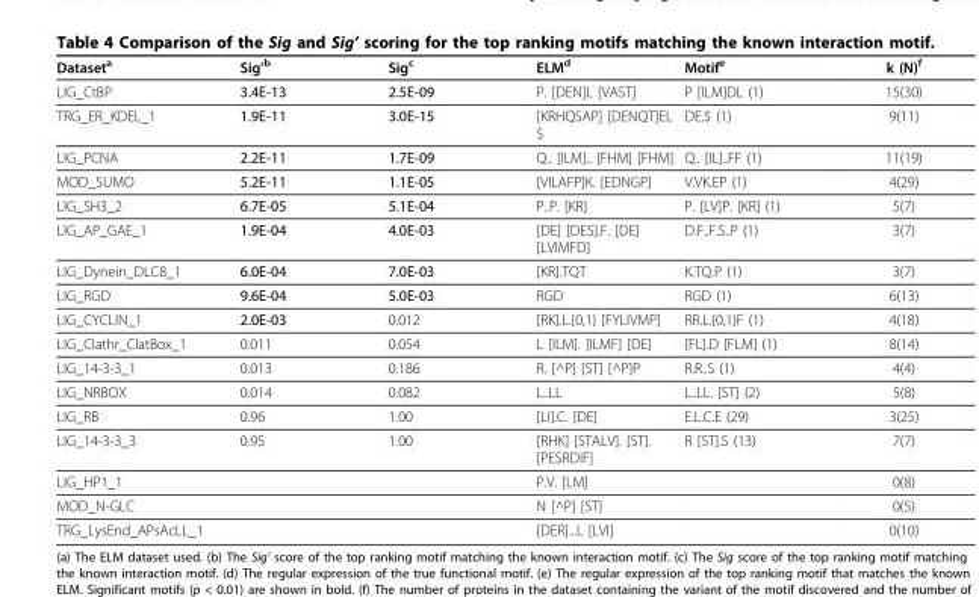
<table><thead><tr><td>Dataset<sup>a</sup></td><td>Sig’<sup>b</sup></td><td>Sig<sup>c</sup></td><td>ELM<sup>d</sup></td><td>Motif<sup>e</sup></td><td>k (N)<sup>f</sup></td></tr></thead><tbody><tr><td>LIG_CtBP</td><td>3.4E-13</td><td>2.5E-09</td><td>P. [DEN]L [VAST]</td><td>P [ILM]DL (1)</td><td>15(30)</td></tr><tr><td>TRG_ER_KDEL_1</td><td>1.9E-11</td><td>3.0E-15</td><td>[KRHQSAP] [DENQT]EL $</td><td>DE.$ (1)</td><td>9(11)</td></tr><tr><td>LIG_PCNA</td><td>2.2E-11</td><td>1.7E-09</td><td>Q.. [ILM].. [FHM] [FHM]</td><td>Q.. [IL]..FF (1)</td><td>11(19)</td></tr><tr><td>MOD_SUMO</td><td>5.2E-11</td><td>1.1E-05</td><td>[VILAFP]K. [EDNGP]</td><td>V.VK.EP (1)</td><td>4(29)</td></tr><tr><td>LIG_SH3_2</td><td>6.7E-05</td><td>5.1E-04</td><td>P..P. [KR]</td><td>P. [LV]P. [KR] (1)</td><td>5(7)</td></tr><tr><td>LIG_AP_GAE_1</td><td>1.9E-04</td><td>4.0E-03</td><td>[DE] [DES].F. [DE] [LVIMFD]</td><td>D.F..F.S..P (1)</td><td>3(7)</td></tr><tr><td>LIG_Dynein_DLC8_1</td><td>6.0E-04</td><td>7.0E-03</td><td>[KR].TQT</td><td>K.TQ.P (1)</td><td>3(7)</td></tr><tr><td>LIG_RGD</td><td>9.6E-04</td><td>5.0E-03</td><td>RGD</td><td>RGD (1)</td><td>6(13)</td></tr><tr><td>LIG_CYCLIN_1</td><td>2.0E-03</td><td>0.012</td><td>[RK].L.{0,1} [FYLIVMP]</td><td>RR.L.{0,1}F (1)</td><td>4(18)</td></tr><tr><td>LIG_Clathr_ClatBox_1</td><td>0.011</td><td>0.054</td><td>L [ILM]. [ILMF] [DE]</td><td>[FL].D [FLM] (1)</td><td>8(14)</td></tr><tr><td>LIG_14-3-3_1</td><td>0.013</td><td>0.186</td><td>R. [^P] [ST] [^P]P</td><td>R.R..S (1)</td><td>4(4)</td></tr><tr><td>LIG_NRBOX</td><td>0.014</td><td>0.082</td><td>L..LL</td><td>L..LL. [ST] (2)</td><td>5(8)</td></tr><tr><td>LIG_RB</td><td>0.96</td><td>1.00</td><td>[LI].C. [DE]</td><td>E.L.C.E (29)</td><td>3(25)</td></tr><tr><td>LIG_14-3-3_3</td><td>0.95</td><td>1.00</td><td>[RHK] [STALV]. [ST]. [PESRDIF]</td><td>R [ST].S (13)</td><td>7(7)</td></tr><tr><td>LIG_HP1_1</td><td></td><td></td><td>P.V. [LM]</td><td></td><td>0(8)</td></tr><tr><td>MOD_N-GLC</td><td></td><td></td><td>N [^P] [ST]</td><td></td><td>0(5)</td></tr><tr><td>TRG_LysEnd_APsAcLL_1</td><td></td><td></td><td>[DER]...L [LVI]</td><td></td><td>0(10)</td></tr></tbody></table>